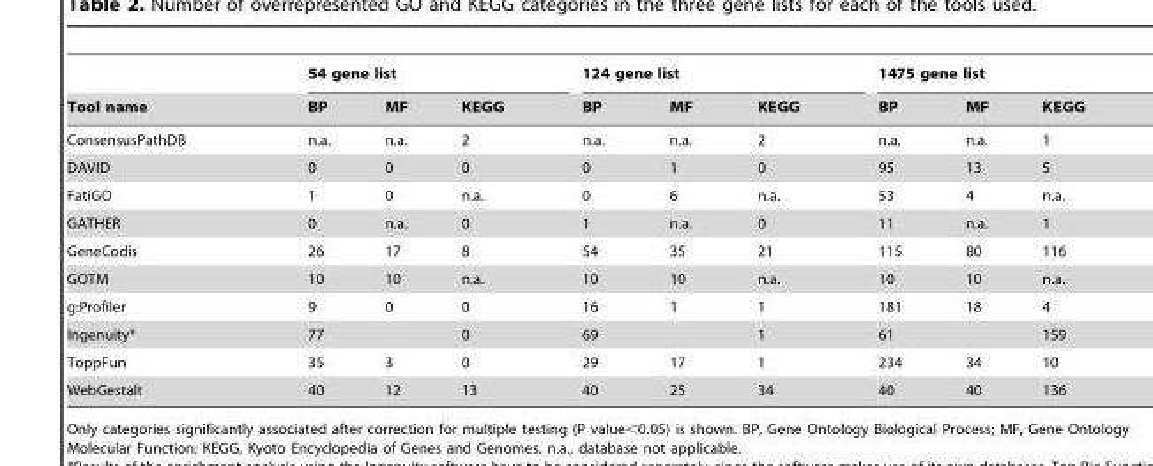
<table><thead><tr><td rowspan="2">Tool name</td><td colspan="3">54 gene list</td><td colspan="3">124 gene list</td><td colspan="3">1475 gene list</td></tr><tr><td>BP</td><td>MF</td><td>KEGG</td><td>BP</td><td>MF</td><td>KEGG</td><td>BP</td><td>MF</td><td>KEGG</td></tr></thead><tbody><tr><td>ConsensusPathDB</td><td>n.a.</td><td>n.a.</td><td>2</td><td>n.a.</td><td>n.a.</td><td>2</td><td>n.a.</td><td>n.a.</td><td>1</td></tr><tr><td>DAVID</td><td>0</td><td>0</td><td>0</td><td>0</td><td>1</td><td>0</td><td>95</td><td>13</td><td>5</td></tr><tr><td>FatiGO</td><td>1</td><td>0</td><td>n.a.</td><td>0</td><td>6</td><td>n.a.</td><td>53</td><td>4</td><td>n.a.</td></tr><tr><td>GATHER</td><td>0</td><td>n.a.</td><td>0</td><td>1</td><td>n.a.</td><td>0</td><td>11</td><td>n.a.</td><td>1</td></tr><tr><td>GeneCodis</td><td>26</td><td>17</td><td>8</td><td>54</td><td>35</td><td>21</td><td>115</td><td>80</td><td>116</td></tr><tr><td>GOTM</td><td>10</td><td>10</td><td>n.a.</td><td>10</td><td>10</td><td>n.a.</td><td>10</td><td>10</td><td>n.a.</td></tr><tr><td>g:Profiler</td><td>9</td><td>0</td><td>0</td><td>16</td><td>1</td><td>1</td><td>181</td><td>18</td><td>4</td></tr><tr><td>Ingenuity*</td><td colspan="2">77</td><td>0</td><td colspan="2">69</td><td>1</td><td colspan="2">61</td><td>159</td></tr><tr><td>ToppFun</td><td>35</td><td>3</td><td>0</td><td>29</td><td>17</td><td>1</td><td>234</td><td>34</td><td>10</td></tr><tr><td>WebGestalt</td><td>40</td><td>12</td><td>13</td><td>40</td><td>25</td><td>34</td><td>40</td><td>40</td><td>136</td></tr></tbody></table>